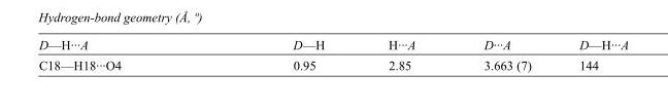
<table><tbody><tr><td>D—H···A</td><td>D—H</td><td>H···A</td><td>D···A</td><td>D—H···A</td></tr><tr><td>C18—H18···O4</td><td>0.95</td><td>2.85</td><td>3.663 (7)</td><td>144</td></tr></tbody></table>